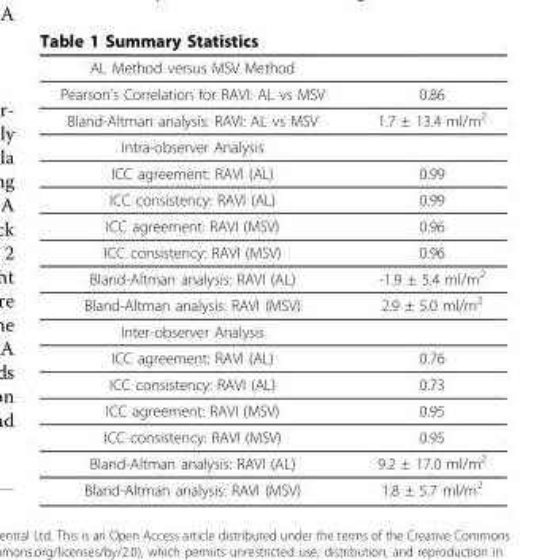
<table><thead><tr><td>AL Method versus MSV Method</td><td></td></tr></thead><tbody><tr><td>Pearson’s Correlation for RAVI: AL vs MSV</td><td>0.86</td></tr><tr><td>Bland-Altman analysis: RAVI: AL vs MSV</td><td>1.7 ± 13.4 ml/m<sup>2</sup></td></tr><tr><td colspan="2">Intra-observer Analysis</td></tr><tr><td>ICC agreement: RAVI (AL)</td><td>0.99</td></tr><tr><td>ICC consistency: RAVI (AL)</td><td>0.99</td></tr><tr><td>ICC agreement: RAVI (MSV)</td><td>0.96</td></tr><tr><td>ICC consistency: RAVI (MSV)</td><td>0.96</td></tr><tr><td>Bland-Altman analysis: RAVI (AL)</td><td>-1.9 ± 5.4 ml/m<sup>2</sup></td></tr><tr><td>Bland-Altman analysis: RAVI (MSV)</td><td>2.9 ± 5.0 ml/m<sup>2</sup></td></tr><tr><td colspan="2">Inter-observer Analysis</td></tr><tr><td>ICC agreement: RAVI (AL)</td><td>0.76</td></tr><tr><td>ICC consistency: RAVI (AL)</td><td>0.73</td></tr><tr><td>ICC agreement: RAVI (MSV)</td><td>0.95</td></tr><tr><td>ICC consistency: RAVI (MSV)</td><td>0.95</td></tr><tr><td>Bland-Altman analysis: RAVI (AL)</td><td>9.2 ± 17.0 ml/m<sup>2</sup></td></tr><tr><td>Bland-Altman analysis: RAVI (MSV)</td><td>1.8 ± 5.7 ml/m<sup>2</sup></td></tr></tbody></table>